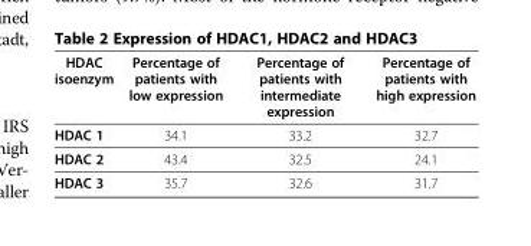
<table><thead><tr><td>HDAC isoenzym</td><td>Percentage of patients with low expression</td><td>Percentage of patients with intermediate expression</td><td>Percentage of patients with high expression</td></tr></thead><tbody><tr><td>HDAC 1</td><td>34.1</td><td>33.2</td><td>32.7</td></tr><tr><td>HDAC 2</td><td>43.4</td><td>32.5</td><td>24.1</td></tr><tr><td>HDAC 3</td><td>35.7</td><td>32.6</td><td>31.7</td></tr></tbody></table>